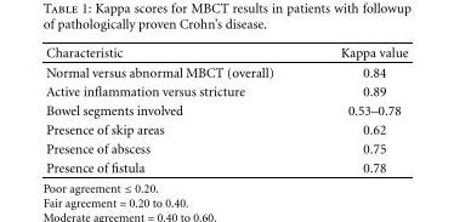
<table><thead><tr><td>Characteristic</td><td>Kappa value</td></tr></thead><tbody><tr><td>Normal versus abnormal MBCT (overall)</td><td>0.84</td></tr><tr><td>Active inflammation versus stricture</td><td>0.89</td></tr><tr><td>Bowel segments involved</td><td>0.53–0.78</td></tr><tr><td>Presence of skip areas</td><td>0.62</td></tr><tr><td>Presence of abscess</td><td>0.75</td></tr><tr><td>Presence of fistula</td><td>0.78</td></tr></tbody></table>